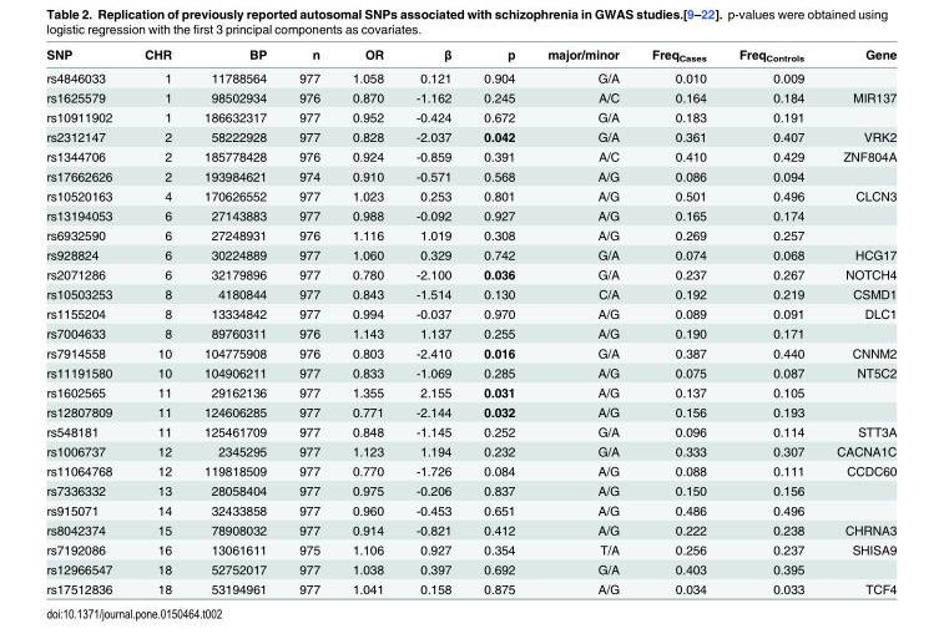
<table><thead><tr><td>SNP</td><td>CHR</td><td>BP</td><td>n</td><td>OR</td><td>β</td><td>p</td><td>major/minor</td><td>Freq<sub>Cases</sub></td><td>Freq<sub>Controls</sub></td><td>Gene</td></tr></thead><tbody><tr><td>rs4846033</td><td>1</td><td>11788564</td><td>977</td><td>1.058</td><td>0.121</td><td>0.904</td><td>G/A</td><td>0.010</td><td>0.009</td><td></td></tr><tr><td>rs1625579</td><td>1</td><td>98502934</td><td>976</td><td>0.870</td><td>-1.162</td><td>0.245</td><td>A/C</td><td>0.164</td><td>0.184</td><td>MIR137</td></tr><tr><td>rs10911902</td><td>1</td><td>186632317</td><td>977</td><td>0.952</td><td>-0.424</td><td>0.672</td><td>G/A</td><td>0.183</td><td>0.191</td><td></td></tr><tr><td>rs2312147</td><td>2</td><td>58222928</td><td>977</td><td>0.828</td><td>-2.037</td><td>0.042</td><td>G/A</td><td>0.361</td><td>0.407</td><td>VRK2</td></tr><tr><td>rs1344706</td><td>2</td><td>185778428</td><td>976</td><td>0.924</td><td>-0.859</td><td>0.391</td><td>A/C</td><td>0.410</td><td>0.429</td><td>ZNF804A</td></tr><tr><td>rs17662626</td><td>2</td><td>193984621</td><td>974</td><td>0.910</td><td>-0.571</td><td>0.568</td><td>A/G</td><td>0.086</td><td>0.094</td><td></td></tr><tr><td>rs10520163</td><td>4</td><td>170626552</td><td>977</td><td>1.023</td><td>0.253</td><td>0.801</td><td>A/G</td><td>0.501</td><td>0.496</td><td>CLCN3</td></tr><tr><td>rs13194053</td><td>6</td><td>27143883</td><td>977</td><td>0.988</td><td>-0.092</td><td>0.927</td><td>A/G</td><td>0.165</td><td>0.174</td><td></td></tr><tr><td>rs6932590</td><td>6</td><td>27248931</td><td>976</td><td>1.116</td><td>1.019</td><td>0.308</td><td>A/G</td><td>0.269</td><td>0.257</td><td></td></tr><tr><td>rs928824</td><td>6</td><td>30224889</td><td>977</td><td>1.060</td><td>0.329</td><td>0.742</td><td>G/A</td><td>0.074</td><td>0.068</td><td>HCG17</td></tr><tr><td>rs2071286</td><td>6</td><td>32179896</td><td>977</td><td>0.780</td><td>-2.100</td><td>0.036</td><td>G/A</td><td>0.237</td><td>0.267</td><td>NOTCH4</td></tr><tr><td>rs10503253</td><td>8</td><td>4180844</td><td>977</td><td>0.843</td><td>-1.514</td><td>0.130</td><td>C/A</td><td>0.192</td><td>0.219</td><td>CSMD1</td></tr><tr><td>rs1155204</td><td>8</td><td>13334842</td><td>977</td><td>0.994</td><td>-0.037</td><td>0.970</td><td>A/G</td><td>0.089</td><td>0.091</td><td>DLC1</td></tr><tr><td>rs7004633</td><td>8</td><td>89760311</td><td>976</td><td>1.143</td><td>1.137</td><td>0.255</td><td>A/G</td><td>0.190</td><td>0.171</td><td></td></tr><tr><td>rs7914558</td><td>10</td><td>104775908</td><td>976</td><td>0.803</td><td>-2.410</td><td>0.016</td><td>G/A</td><td>0.387</td><td>0.440</td><td>CNNM2</td></tr><tr><td>rs11191580</td><td>10</td><td>104906211</td><td>977</td><td>0.833</td><td>-1.069</td><td>0.285</td><td>A/G</td><td>0.075</td><td>0.087</td><td>NT5C2</td></tr><tr><td>rs1602565</td><td>11</td><td>29162136</td><td>977</td><td>1.355</td><td>2.155</td><td>0.031</td><td>A/G</td><td>0.137</td><td>0.105</td><td></td></tr><tr><td>rs12807809</td><td>11</td><td>124606285</td><td>977</td><td>0.771</td><td>-2.144</td><td>0.032</td><td>A/G</td><td>0.156</td><td>0.193</td><td></td></tr><tr><td>rs548181</td><td>11</td><td>125461709</td><td>977</td><td>0.848</td><td>-1.145</td><td>0.252</td><td>G/A</td><td>0.096</td><td>0.114</td><td>STT3A</td></tr><tr><td>rs1006737</td><td>12</td><td>2345295</td><td>977</td><td>1.123</td><td>1.194</td><td>0.232</td><td>G/A</td><td>0.333</td><td>0.307</td><td>CACNA1C</td></tr><tr><td>rs11064768</td><td>12</td><td>119818509</td><td>977</td><td>0.770</td><td>-1.726</td><td>0.084</td><td>A/G</td><td>0.088</td><td>0.111</td><td>CCDC60</td></tr><tr><td>rs7336332</td><td>13</td><td>28058404</td><td>977</td><td>0.975</td><td>-0.206</td><td>0.837</td><td>A/G</td><td>0.150</td><td>0.156</td><td></td></tr><tr><td>rs915071</td><td>14</td><td>32433858</td><td>977</td><td>0.960</td><td>-0.453</td><td>0.651</td><td>A/G</td><td>0.486</td><td>0.496</td><td></td></tr><tr><td>rs8042374</td><td>15</td><td>78908032</td><td>977</td><td>0.914</td><td>-0.821</td><td>0.412</td><td>A/G</td><td>0.222</td><td>0.238</td><td>CHRNA3</td></tr><tr><td>rs7192086</td><td>16</td><td>13061611</td><td>975</td><td>1.106</td><td>0.927</td><td>0.354</td><td>T/A</td><td>0.256</td><td>0.237</td><td>SHISA9</td></tr><tr><td>rs12966547</td><td>18</td><td>52752017</td><td>977</td><td>1.038</td><td>0.397</td><td>0.692</td><td>G/A</td><td>0.403</td><td>0.395</td><td></td></tr><tr><td>rs17512836</td><td>18</td><td>53194961</td><td>977</td><td>1.041</td><td>0.158</td><td>0.875</td><td>A/G</td><td>0.034</td><td>0.033</td><td>TCF4</td></tr></tbody></table>